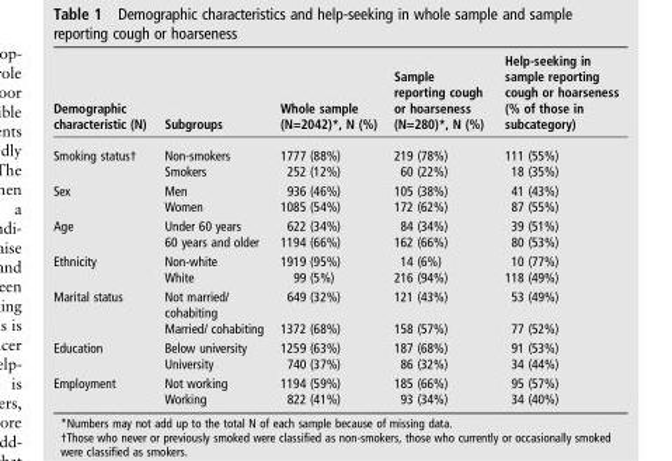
<table><thead><tr><td>Demographic characteristic (N)</td><td>Subgroups</td><td>Whole sample (N=2042)*, N (%)</td><td>Sample reporting cough or hoarseness (N=280)*, N (%)</td><td>Help-seeking in sample reporting cough or hoarseness (% of those in subcategory)</td></tr></thead><tbody><tr><td rowspan="2">Smoking status†</td><td>Non-smokers</td><td>1777 (88%)</td><td>219 (78%)</td><td>111 (55%)</td></tr><tr><td>Smokers</td><td>252 (12%)</td><td>60 (22%)</td><td>18 (35%)</td></tr><tr><td rowspan="2">Sex</td><td>Men</td><td>936 (46%)</td><td>105 (38%)</td><td>41 (43%)</td></tr><tr><td>Women</td><td>1085 (54%)</td><td>172 (62%)</td><td>87 (55%)</td></tr><tr><td rowspan="2">Age</td><td>Under 60 years</td><td>622 (34%)</td><td>84 (34%)</td><td>39 (51%)</td></tr><tr><td>60 years and older</td><td>1194 (66%)</td><td>162 (66%)</td><td>80 (53%)</td></tr><tr><td rowspan="2">Ethnicity</td><td>Non-white</td><td>1919 (95%)</td><td>14 (6%)</td><td>10 (77%)</td></tr><tr><td>White</td><td>99 (5%)</td><td>216 (94%)</td><td>118 (49%)</td></tr><tr><td rowspan="2">Marital status</td><td>Not married/ cohabiting</td><td>649 (32%)</td><td>121 (43%)</td><td>53 (49%)</td></tr><tr><td>Married/ cohabiting</td><td>1372 (68%)</td><td>158 (57%)</td><td>77 (52%)</td></tr><tr><td rowspan="2">Education</td><td>Below university</td><td>1259 (63%)</td><td>187 (68%)</td><td>91 (53%)</td></tr><tr><td>University</td><td>740 (37%)</td><td>86 (32%)</td><td>34 (44%)</td></tr><tr><td rowspan="2">Employment</td><td>Not working</td><td>1194 (59%)</td><td>185 (66%)</td><td>95 (57%)</td></tr><tr><td>Working</td><td>822 (41%)</td><td>93 (34%)</td><td>34 (40%)</td></tr></tbody></table>